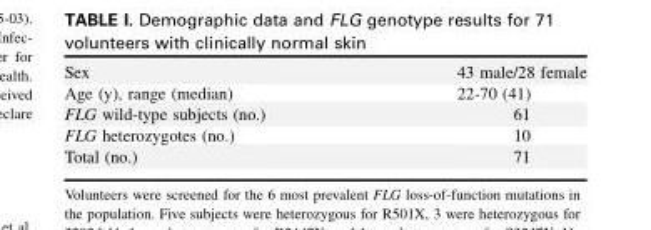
<table><tbody><tr><td>Sex</td><td>43 male/28 female</td></tr><tr><td>Age (y), range (median)</td><td>22-70 (41)</td></tr><tr><td>FLG wild-type subjects (no.)</td><td>61</td></tr><tr><td>FLG heterozygotes (no.)</td><td>10</td></tr><tr><td>Total (no.)</td><td>71</td></tr></tbody></table>